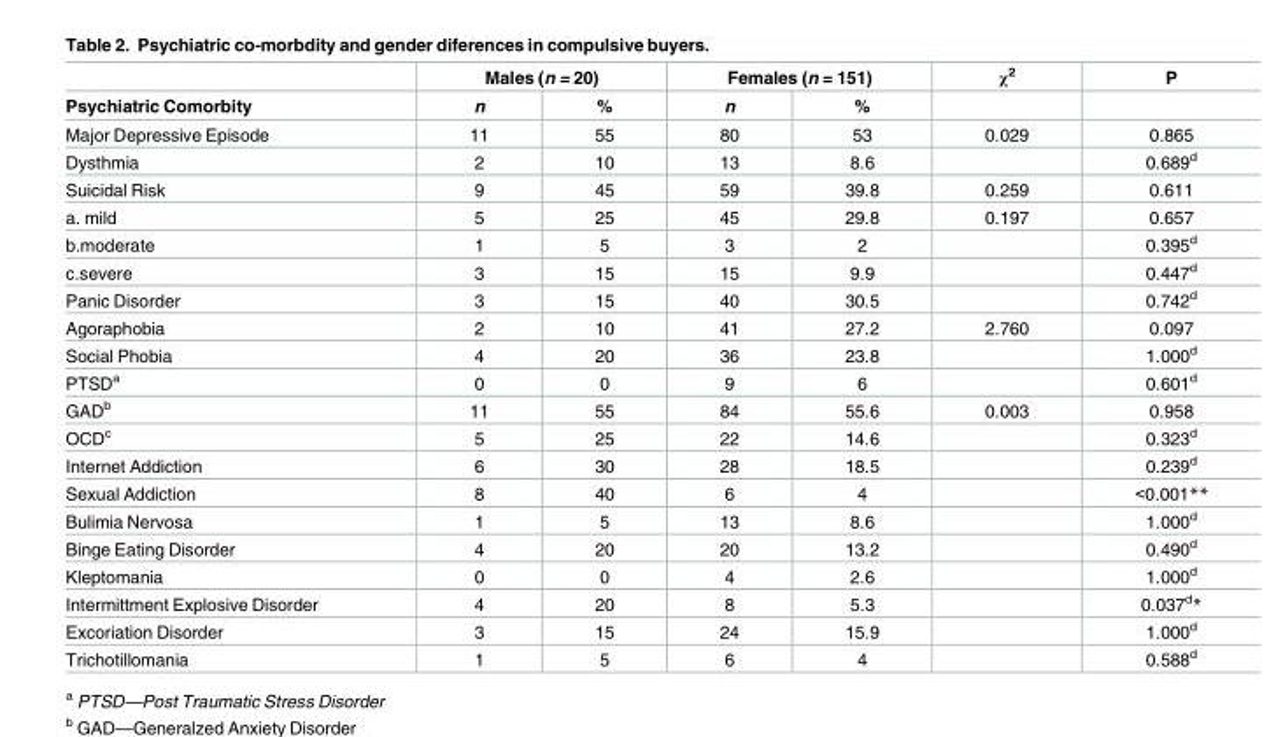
<table><thead><tr><td rowspan="2">Psychiatric Comorbity</td><td colspan="2">Males (n = 20)</td><td colspan="2">Females (n = 151)</td><td rowspan="2">χ<sup>2</sup></td><td rowspan="2">P</td></tr><tr><td>n</td><td>%</td><td>n</td><td>%</td></tr></thead><tbody><tr><td>Major Depressive Episode</td><td>11</td><td>55</td><td>80</td><td>53</td><td>0.029</td><td>0.865</td></tr><tr><td>Dysthmia</td><td>2</td><td>10</td><td>13</td><td>8.6</td><td></td><td>0.689<sup>d</sup></td></tr><tr><td>Suicidal Risk</td><td>9</td><td>45</td><td>59</td><td>39.8</td><td>0.259</td><td>0.611</td></tr><tr><td>a. mild</td><td>5</td><td>25</td><td>45</td><td>29.8</td><td>0.197</td><td>0.657</td></tr><tr><td>b.moderate</td><td>1</td><td>5</td><td>3</td><td>2</td><td></td><td>0.395<sup>d</sup></td></tr><tr><td>c.severe</td><td>3</td><td>15</td><td>15</td><td>9.9</td><td></td><td>0.447<sup>d</sup></td></tr><tr><td>Panic Disorder</td><td>3</td><td>15</td><td>40</td><td>30.5</td><td></td><td>0.742<sup>d</sup></td></tr><tr><td>Agoraphobia</td><td>2</td><td>10</td><td>41</td><td>27.2</td><td>2.760</td><td>0.097</td></tr><tr><td>Social Phobia</td><td>4</td><td>20</td><td>36</td><td>23.8</td><td></td><td>1.000<sup>d</sup></td></tr><tr><td>PTSD<sup>a</sup></td><td>0</td><td>0</td><td>9</td><td>6</td><td></td><td>0.601<sup>d</sup></td></tr><tr><td>GAD<sup>b</sup></td><td>11</td><td>55</td><td>84</td><td>55.6</td><td>0.003</td><td>0.958</td></tr><tr><td>OCD<sup>c</sup></td><td>5</td><td>25</td><td>22</td><td>14.6</td><td></td><td>0.323<sup>d</sup></td></tr><tr><td>Internet Addiction</td><td>6</td><td>30</td><td>28</td><td>18.5</td><td></td><td>0.239<sup>d</sup></td></tr><tr><td>Sexual Addiction</td><td>8</td><td>40</td><td>6</td><td>4</td><td></td><td>&lt;0.001**</td></tr><tr><td>Bulimia Nervosa</td><td>1</td><td>5</td><td>13</td><td>8.6</td><td></td><td>1.000<sup>d</sup></td></tr><tr><td>Binge Eating Disorder</td><td>4</td><td>20</td><td>20</td><td>13.2</td><td></td><td>0.490<sup>d</sup></td></tr><tr><td>Kleptomania</td><td>0</td><td>0</td><td>4</td><td>2.6</td><td></td><td>1.000<sup>d</sup></td></tr><tr><td>Intermittment Explosive Disorder</td><td>4</td><td>20</td><td>8</td><td>5.3</td><td></td><td>0.037<sup>d</sup>*</td></tr><tr><td>Excoriation Disorder</td><td>3</td><td>15</td><td>24</td><td>15.9</td><td></td><td>1.000<sup>d</sup></td></tr><tr><td>Trichotillomania</td><td>1</td><td>5</td><td>6</td><td>4</td><td></td><td>0.588<sup>d</sup></td></tr></tbody></table>